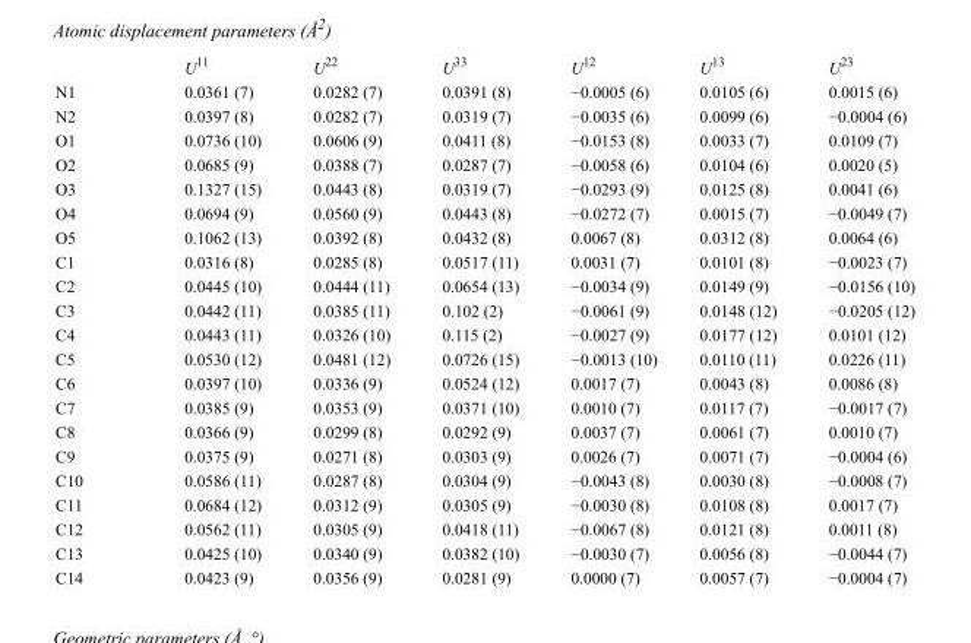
<table><thead><tr><td></td><td>U<sup>11</sup></td><td>U<sup>22</sup></td><td>U<sup>33</sup></td><td>U<sup>12</sup></td><td>U<sup>13</sup></td><td>U<sup>23</sup></td></tr></thead><tbody><tr><td>N1</td><td>0.0361 (7)</td><td>0.0282 (7)</td><td>0.0391 (8)</td><td>−0.0005 (6)</td><td>0.0105 (6)</td><td>0.0015 (6)</td></tr><tr><td>N2</td><td>0.0397 (8)</td><td>0.0282 (7)</td><td>0.0319 (7)</td><td>−0.0035 (6)</td><td>0.0099 (6)</td><td>−0.0004 (6)</td></tr><tr><td>O1</td><td>0.0736 (10)</td><td>0.0606 (9)</td><td>0.0411 (8)</td><td>−0.0153 (8)</td><td>0.0033 (7)</td><td>0.0109 (7)</td></tr><tr><td>O2</td><td>0.0685 (9)</td><td>0.0388 (7)</td><td>0.0287 (7)</td><td>−0.0058 (6)</td><td>0.0104 (6)</td><td>0.0020 (5)</td></tr><tr><td>O3</td><td>0.1327 (15)</td><td>0.0443 (8)</td><td>0.0319 (7)</td><td>−0.0293 (9)</td><td>0.0125 (8)</td><td>0.0041 (6)</td></tr><tr><td>O4</td><td>0.0694 (9)</td><td>0.0560 (9)</td><td>0.0443 (8)</td><td>−0.0272 (7)</td><td>0.0015 (7)</td><td>−0.0049 (7)</td></tr><tr><td>O5</td><td>0.1062 (13)</td><td>0.0392 (8)</td><td>0.0432 (8)</td><td>0.0067 (8)</td><td>0.0312 (8)</td><td>0.0064 (6)</td></tr><tr><td>C1</td><td>0.0316 (8)</td><td>0.0285 (8)</td><td>0.0517 (11)</td><td>0.0031 (7)</td><td>0.0101 (8)</td><td>−0.0023 (7)</td></tr><tr><td>C2</td><td>0.0445 (10)</td><td>0.0444 (11)</td><td>0.0654 (13)</td><td>−0.0034 (9)</td><td>0.0149 (9)</td><td>−0.0156 (10)</td></tr><tr><td>C3</td><td>0.0442 (11)</td><td>0.0385 (11)</td><td>0.102 (2)</td><td>−0.0061 (9)</td><td>0.0148 (12)</td><td>−0.0205 (12)</td></tr><tr><td>C4</td><td>0.0443 (11)</td><td>0.0326 (10)</td><td>0.115 (2)</td><td>−0.0027 (9)</td><td>0.0177 (12)</td><td>0.0101 (12)</td></tr><tr><td>C5</td><td>0.0530 (12)</td><td>0.0481 (12)</td><td>0.0726 (15)</td><td>−0.0013 (10)</td><td>0.0110 (11)</td><td>0.0226 (11)</td></tr><tr><td>C6</td><td>0.0397 (10)</td><td>0.0336 (9)</td><td>0.0524 (12)</td><td>0.0017 (7)</td><td>0.0043 (8)</td><td>0.0086 (8)</td></tr><tr><td>C7</td><td>0.0385 (9)</td><td>0.0353 (9)</td><td>0.0371 (10)</td><td>0.0010 (7)</td><td>0.0117 (7)</td><td>−0.0017 (7)</td></tr><tr><td>C8</td><td>0.0366 (9)</td><td>0.0299 (8)</td><td>0.0292 (9)</td><td>0.0037 (7)</td><td>0.0061 (7)</td><td>0.0010 (7)</td></tr><tr><td>C9</td><td>0.0375 (9)</td><td>0.0271 (8)</td><td>0.0303 (9)</td><td>0.0026 (7)</td><td>0.0071 (7)</td><td>−0.0004 (6)</td></tr><tr><td>C10</td><td>0.0586 (11)</td><td>0.0287 (8)</td><td>0.0304 (9)</td><td>−0.0043 (8)</td><td>0.0030 (8)</td><td>−0.0008 (7)</td></tr><tr><td>C11</td><td>0.0684 (12)</td><td>0.0312 (9)</td><td>0.0305 (9)</td><td>−0.0030 (8)</td><td>0.0108 (8)</td><td>0.0017 (7)</td></tr><tr><td>C12</td><td>0.0562 (11)</td><td>0.0305 (9)</td><td>0.0418 (11)</td><td>−0.0067 (8)</td><td>0.0121 (8)</td><td>0.0011 (8)</td></tr><tr><td>C13</td><td>0.0425 (10)</td><td>0.0340 (9)</td><td>0.0382 (10)</td><td>−0.0030 (7)</td><td>0.0056 (8)</td><td>−0.0044 (7)</td></tr><tr><td>C14</td><td>0.0423 (9)</td><td>0.0356 (9)</td><td>0.0281 (9)</td><td>0.0000 (7)</td><td>0.0057 (7)</td><td>−0.0004 (7)</td></tr></tbody></table>